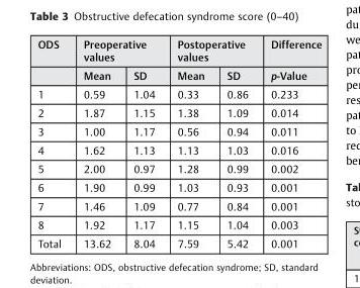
<table><thead><tr><td rowspan="2">ODS</td><td colspan="2">Preoperative values</td><td colspan="2">Postoperative values</td><td rowspan="2">Difference p-Value</td></tr><tr><td>Mean</td><td>SD</td><td>Mean</td><td>SD</td></tr></thead><tbody><tr><td>1</td><td>0.59</td><td>1.04</td><td>0.33</td><td>0.86</td><td>0.233</td></tr><tr><td>2</td><td>1.87</td><td>1.15</td><td>1.38</td><td>1.09</td><td>0.014</td></tr><tr><td>3</td><td>1.00</td><td>1.17</td><td>0.56</td><td>0.94</td><td>0.011</td></tr><tr><td>4</td><td>1.62</td><td>1.13</td><td>1.13</td><td>1.03</td><td>0.016</td></tr><tr><td>5</td><td>2.00</td><td>0.97</td><td>1.28</td><td>0.99</td><td>0.002</td></tr><tr><td>6</td><td>1.90</td><td>0.99</td><td>1.03</td><td>0.93</td><td>0.001</td></tr><tr><td>7</td><td>1.46</td><td>1.09</td><td>0.77</td><td>0.84</td><td>0.001</td></tr><tr><td>8</td><td>1.92</td><td>1.17</td><td>1.15</td><td>1.04</td><td>0.003</td></tr><tr><td>Total</td><td>13.62</td><td>8.04</td><td>7.59</td><td>5.42</td><td>0.001</td></tr></tbody></table>